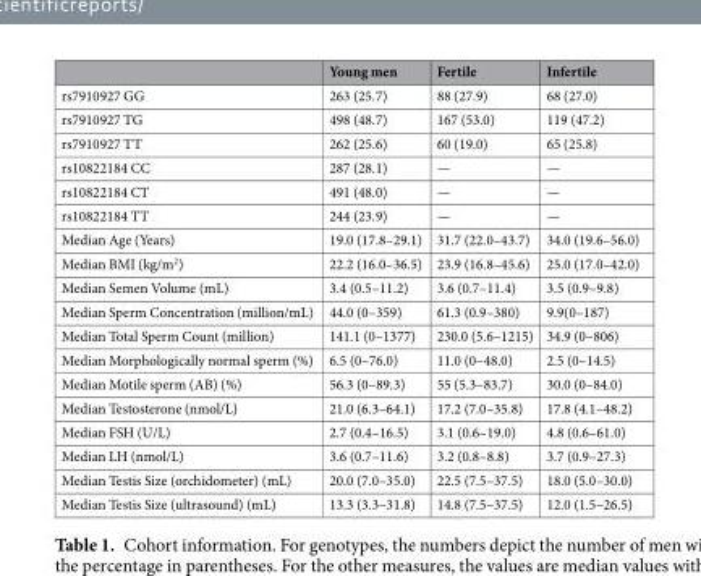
<table><thead><tr><td></td><td>Young men</td><td>Fertile</td><td>Infertile</td></tr></thead><tbody><tr><td>rs7910927 GG</td><td>263 (25.7)</td><td>88 (27.9)</td><td>68 (27.0)</td></tr><tr><td>rs7910927 TG</td><td>498 (48.7)</td><td>167 (53.0)</td><td>119 (47.2)</td></tr><tr><td>rs7910927 TT</td><td>262 (25.6)</td><td>60 (19.0)</td><td>65 (25.8)</td></tr><tr><td>rs10822184 CC</td><td>287 (28.1)</td><td>—</td><td>—</td></tr><tr><td>rs10822184 CT</td><td>491 (48.0)</td><td>—</td><td>—</td></tr><tr><td>rs10822184 TT</td><td>244 (23.9)</td><td>—</td><td>—</td></tr><tr><td>Median Age (Years)</td><td>19.0 (17.8–29.1)</td><td>31.7 (22.0–43.7)</td><td>34.0 (19.6–56.0)</td></tr><tr><td>Median BMI (kg/m<sup>2</sup>)</td><td>22.2 (16.0–36.5)</td><td>23.9 (16.8–45.6)</td><td>25.0 (17.0–42.0)</td></tr><tr><td>Median Semen Volume (mL)</td><td>3.4 (0.5–11.2)</td><td>3.6 (0.7–11.4)</td><td>3.5 (0.9–9.8)</td></tr><tr><td>Median Sperm Concentration (million/mL)</td><td>44.0 (0–359)</td><td>61.3 (0.9–380)</td><td>9.9(0–187)</td></tr><tr><td>Median Total Sperm Count (million)</td><td>141.1 (0–1377)</td><td>230.0 (5.6–1215)</td><td>34.9 (0–806)</td></tr><tr><td>Median Morphologically normal sperm (%)</td><td>6.5 (0–76.0)</td><td>11.0 (0–48.0)</td><td>2.5 (0–14.5)</td></tr><tr><td>Median Motile sperm (AB) (%)</td><td>56.3 (0–89.3)</td><td>55 (5.3–83.7)</td><td>30.0 (0–84.0)</td></tr><tr><td>Median Testosterone (nmol/L)</td><td>21.0 (6.3–64.1)</td><td>17.2 (7.0–35.8)</td><td>17.8 (4.1–48.2)</td></tr><tr><td>Median FSH (U/L)</td><td>2.7 (0.4–16.5)</td><td>3.1 (0.6–19.0)</td><td>4.8 (0.6–61.0)</td></tr><tr><td>Median LH (nmol/L)</td><td>3.6 (0.7–11.6)</td><td>3.2 (0.8–8.8)</td><td>3.7 (0.9–27.3)</td></tr><tr><td>Median Testis Size (orchidometer) (mL)</td><td>20.0 (7.0–35.0)</td><td>22.5 (7.5–37.5)</td><td>18.0 (5.0–30.0)</td></tr><tr><td>Median Testis Size (ultrasound) (mL)</td><td>13.3 (3.3–31.8)</td><td>14.8 (7.5–37.5)</td><td>12.0 (1.5–26.5)</td></tr></tbody></table>